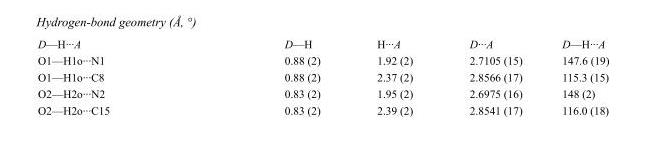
<table><tbody><tr><td>D—H···A</td><td>D—H</td><td>H···A</td><td>D···A</td><td>D—H···A</td></tr><tr><td>O1—H1o···N1</td><td>0.88 (2)</td><td>1.92 (2)</td><td>2.7105 (15)</td><td>147.6 (19)</td></tr><tr><td>O1—H1o···C8</td><td>0.88 (2)</td><td>2.37 (2)</td><td>2.8566 (17)</td><td>115.3 (15)</td></tr><tr><td>O2—H2o···N2</td><td>0.83 (2)</td><td>1.95 (2)</td><td>2.6975 (16)</td><td>148 (2)</td></tr><tr><td>O2—H2o···C15</td><td>0.83 (2)</td><td>2.39 (2)</td><td>2.8541 (17)</td><td>116.0 (18)</td></tr></tbody></table>